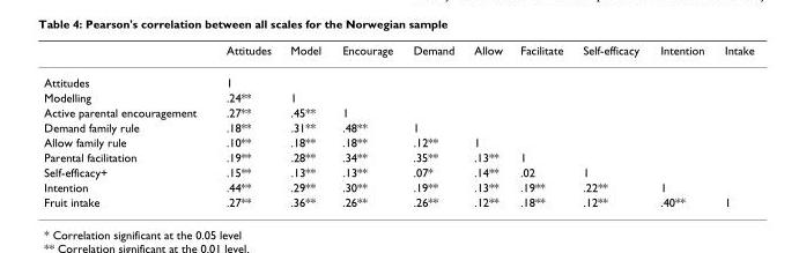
<table><thead><tr><td></td><td>Attitudes</td><td>Model</td><td>Encourage</td><td>Demand</td><td>Allow</td><td>Facilitate</td><td>Self-efficacy</td><td>Intention</td><td>Intake</td></tr></thead><tbody><tr><td>Attitudes</td><td>1</td><td></td><td></td><td></td><td></td><td></td><td></td><td></td><td></td></tr><tr><td>Modelling</td><td>.24**</td><td>1</td><td></td><td></td><td></td><td></td><td></td><td></td><td></td></tr><tr><td>Active parental encouragement</td><td>.27**</td><td>.45**</td><td>1</td><td></td><td></td><td></td><td></td><td></td><td></td></tr><tr><td>Demand family rule</td><td>.18**</td><td>.31**</td><td>.48**</td><td>1</td><td></td><td></td><td></td><td></td><td></td></tr><tr><td>Allow family rule</td><td>.10**</td><td>.18**</td><td>.18**</td><td>.12**</td><td>1</td><td></td><td></td><td></td><td></td></tr><tr><td>Parental facilitation</td><td>.19**</td><td>.28**</td><td>.34**</td><td>.35**</td><td>.13**</td><td>1</td><td></td><td></td><td></td></tr><tr><td>Self-efficacy+</td><td>.15**</td><td>.13**</td><td>.13**</td><td>.07*</td><td>.14**</td><td>.02</td><td>1</td><td></td><td></td></tr><tr><td>Intention</td><td>.44**</td><td>.29**</td><td>.30**</td><td>.19**</td><td>.13**</td><td>.19**</td><td>.22**</td><td>1</td><td></td></tr><tr><td>Fruit intake</td><td>.27**</td><td>.36**</td><td>.26**</td><td>.26**</td><td>.12**</td><td>.18**</td><td>.12**</td><td>.40**</td><td>1</td></tr></tbody></table>